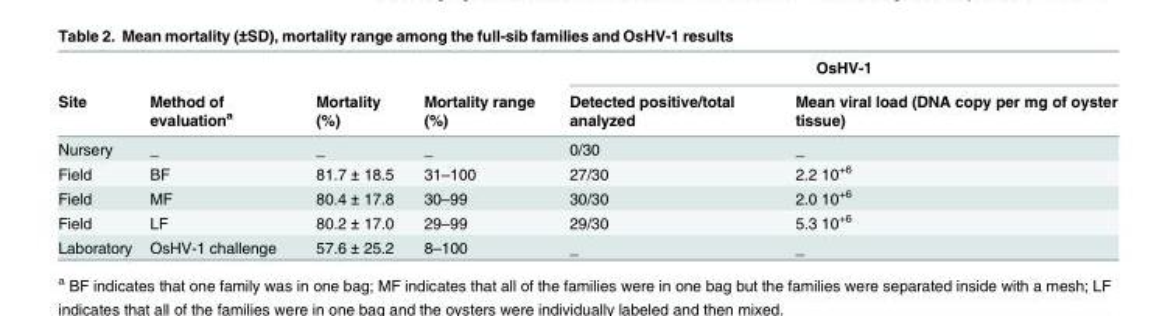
<table><thead><tr><td rowspan="2">Site</td><td rowspan="2">Method of evaluation<sup>a</sup></td><td rowspan="2">Mortality (%)</td><td rowspan="2">Mortality range (%)</td><td colspan="2">OsHV-1</td></tr><tr><td>Detected positive/total analyzed</td><td>Mean viral load (DNA copy per mg of oyster tissue)</td></tr></thead><tbody><tr><td>Nursery</td><td>_</td><td>_</td><td>_</td><td>0/30</td><td>_</td></tr><tr><td>Field</td><td>BF</td><td>81.7 ± 18.5</td><td>31–100</td><td>27/30</td><td>2.2 10<sup>+6</sup></td></tr><tr><td>Field</td><td>MF</td><td>80.4 ± 17.8</td><td>30–99</td><td>30/30</td><td>2.0 10<sup>+6</sup></td></tr><tr><td>Field</td><td>LF</td><td>80.2 ± 17.0</td><td>29–99</td><td>29/30</td><td>5.3 10<sup>+6</sup></td></tr><tr><td>Laboratory</td><td>OsHV-1 challenge</td><td>57.6 ± 25.2</td><td>8–100</td><td>_</td><td>_</td></tr></tbody></table>